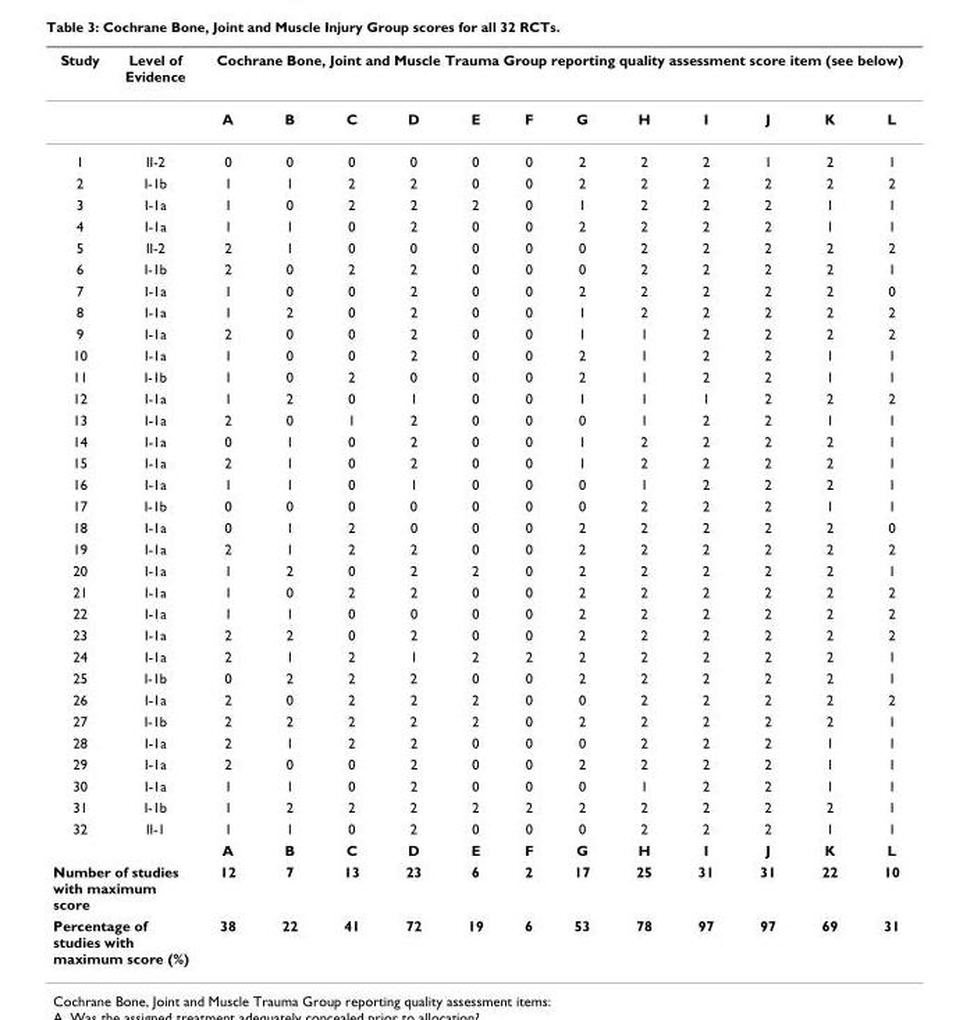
<table><thead><tr><td rowspan="2">Study</td><td rowspan="2">Level of Evidence</td><td colspan="12">Cochrane Bone, Joint and Muscle Trauma Group reporting quality assessment score item (see below)</td></tr><tr><td>A</td><td>B</td><td>C</td><td>D</td><td>E</td><td>F</td><td>G</td><td>H</td><td>I</td><td>J</td><td>K</td><td>L</td></tr></thead><tbody><tr><td>1</td><td>II-2</td><td>0</td><td>0</td><td>0</td><td>0</td><td>0</td><td>0</td><td>2</td><td>2</td><td>2</td><td>1</td><td>2</td><td>1</td></tr><tr><td>2</td><td>I-1b</td><td>1</td><td>1</td><td>2</td><td>2</td><td>0</td><td>0</td><td>2</td><td>2</td><td>2</td><td>2</td><td>2</td><td>2</td></tr><tr><td>3</td><td>I-1a</td><td>1</td><td>0</td><td>2</td><td>2</td><td>2</td><td>0</td><td>1</td><td>2</td><td>2</td><td>2</td><td>1</td><td>1</td></tr><tr><td>4</td><td>I-1a</td><td>1</td><td>1</td><td>0</td><td>2</td><td>0</td><td>0</td><td>2</td><td>2</td><td>2</td><td>2</td><td>1</td><td>1</td></tr><tr><td>5</td><td>II-2</td><td>2</td><td>1</td><td>0</td><td>0</td><td>0</td><td>0</td><td>0</td><td>2</td><td>2</td><td>2</td><td>2</td><td>2</td></tr><tr><td>6</td><td>I-1b</td><td>2</td><td>0</td><td>2</td><td>2</td><td>0</td><td>0</td><td>0</td><td>2</td><td>2</td><td>2</td><td>2</td><td>1</td></tr><tr><td>7</td><td>I-1a</td><td>1</td><td>0</td><td>0</td><td>2</td><td>0</td><td>0</td><td>2</td><td>2</td><td>2</td><td>2</td><td>2</td><td>0</td></tr><tr><td>8</td><td>I-1a</td><td>1</td><td>2</td><td>0</td><td>2</td><td>0</td><td>0</td><td>1</td><td>2</td><td>2</td><td>2</td><td>2</td><td>2</td></tr><tr><td>9</td><td>I-1a</td><td>2</td><td>0</td><td>0</td><td>2</td><td>0</td><td>0</td><td>1</td><td>1</td><td>2</td><td>2</td><td>2</td><td>2</td></tr><tr><td>10</td><td>I-1a</td><td>1</td><td>0</td><td>0</td><td>2</td><td>0</td><td>0</td><td>2</td><td>1</td><td>2</td><td>2</td><td>1</td><td>1</td></tr><tr><td>11</td><td>I-1b</td><td>1</td><td>0</td><td>2</td><td>0</td><td>0</td><td>0</td><td>2</td><td>1</td><td>2</td><td>2</td><td>1</td><td>1</td></tr><tr><td>12</td><td>I-1a</td><td>1</td><td>2</td><td>0</td><td>1</td><td>0</td><td>0</td><td>1</td><td>1</td><td>1</td><td>2</td><td>2</td><td>2</td></tr><tr><td>13</td><td>I-1a</td><td>2</td><td>0</td><td>1</td><td>2</td><td>0</td><td>0</td><td>0</td><td>1</td><td>2</td><td>2</td><td>1</td><td>1</td></tr><tr><td>14</td><td>I-1a</td><td>0</td><td>1</td><td>0</td><td>2</td><td>0</td><td>0</td><td>1</td><td>2</td><td>2</td><td>2</td><td>2</td><td>1</td></tr><tr><td>15</td><td>I-1a</td><td>2</td><td>1</td><td>0</td><td>2</td><td>0</td><td>0</td><td>1</td><td>2</td><td>2</td><td>2</td><td>2</td><td>1</td></tr><tr><td>16</td><td>I-1a</td><td>1</td><td>1</td><td>0</td><td>1</td><td>0</td><td>0</td><td>0</td><td>1</td><td>2</td><td>2</td><td>2</td><td>1</td></tr><tr><td>17</td><td>I-1b</td><td>0</td><td>0</td><td>0</td><td>0</td><td>0</td><td>0</td><td>0</td><td>2</td><td>2</td><td>2</td><td>1</td><td>1</td></tr><tr><td>18</td><td>I-1a</td><td>0</td><td>1</td><td>2</td><td>0</td><td>0</td><td>0</td><td>2</td><td>2</td><td>2</td><td>2</td><td>2</td><td>0</td></tr><tr><td>19</td><td>I-1a</td><td>2</td><td>1</td><td>2</td><td>2</td><td>0</td><td>0</td><td>2</td><td>2</td><td>2</td><td>2</td><td>2</td><td>2</td></tr><tr><td>20</td><td>I-1a</td><td>1</td><td>2</td><td>0</td><td>2</td><td>2</td><td>0</td><td>2</td><td>2</td><td>2</td><td>2</td><td>2</td><td>1</td></tr><tr><td>21</td><td>I-1a</td><td>1</td><td>0</td><td>2</td><td>2</td><td>0</td><td>0</td><td>2</td><td>2</td><td>2</td><td>2</td><td>2</td><td>2</td></tr><tr><td>22</td><td>I-1a</td><td>1</td><td>1</td><td>0</td><td>0</td><td>0</td><td>0</td><td>2</td><td>2</td><td>2</td><td>2</td><td>2</td><td>2</td></tr><tr><td>23</td><td>I-1a</td><td>2</td><td>2</td><td>0</td><td>2</td><td>0</td><td>0</td><td>2</td><td>2</td><td>2</td><td>2</td><td>2</td><td>2</td></tr><tr><td>24</td><td>I-1a</td><td>2</td><td>1</td><td>2</td><td>1</td><td>2</td><td>2</td><td>2</td><td>2</td><td>2</td><td>2</td><td>2</td><td>1</td></tr><tr><td>25</td><td>I-1b</td><td>0</td><td>2</td><td>2</td><td>2</td><td>0</td><td>0</td><td>2</td><td>2</td><td>2</td><td>2</td><td>2</td><td>1</td></tr><tr><td>26</td><td>I-1a</td><td>2</td><td>0</td><td>2</td><td>2</td><td>2</td><td>0</td><td>0</td><td>2</td><td>2</td><td>2</td><td>2</td><td>2</td></tr><tr><td>27</td><td>I-1b</td><td>2</td><td>2</td><td>2</td><td>2</td><td>2</td><td>0</td><td>2</td><td>2</td><td>2</td><td>2</td><td>2</td><td>1</td></tr><tr><td>28</td><td>I-1a</td><td>2</td><td>1</td><td>2</td><td>2</td><td>0</td><td>0</td><td>0</td><td>2</td><td>2</td><td>2</td><td>1</td><td>1</td></tr><tr><td>29</td><td>I-1a</td><td>2</td><td>0</td><td>0</td><td>2</td><td>0</td><td>0</td><td>2</td><td>2</td><td>2</td><td>2</td><td>1</td><td>1</td></tr><tr><td>30</td><td>I-1a</td><td>1</td><td>1</td><td>0</td><td>2</td><td>0</td><td>0</td><td>0</td><td>1</td><td>2</td><td>2</td><td>1</td><td>1</td></tr><tr><td>31</td><td>I-1b</td><td>1</td><td>2</td><td>2</td><td>2</td><td>2</td><td>2</td><td>2</td><td>2</td><td>2</td><td>2</td><td>2</td><td>1</td></tr><tr><td rowspan="2">32</td><td>II-1</td><td>1</td><td>1</td><td>0</td><td>2</td><td>0</td><td>0</td><td>0</td><td>2</td><td>2</td><td>2</td><td>1</td><td>1</td></tr><tr><td></td><td>A</td><td>B</td><td>C</td><td>D</td><td>E</td><td>F</td><td>G</td><td>H</td><td>I</td><td>J</td><td>K</td><td>L</td></tr><tr><td colspan="2">Number of studies with maximum score</td><td>12</td><td>7</td><td>13</td><td>23</td><td>6</td><td>2</td><td>17</td><td>25</td><td>31</td><td>31</td><td>22</td><td>10</td></tr><tr><td colspan="2">Percentage of studies with maximum score (%)</td><td>38</td><td>22</td><td>41</td><td>72</td><td>19</td><td>6</td><td>53</td><td>78</td><td>97</td><td>97</td><td>69</td><td>31</td></tr></tbody></table>